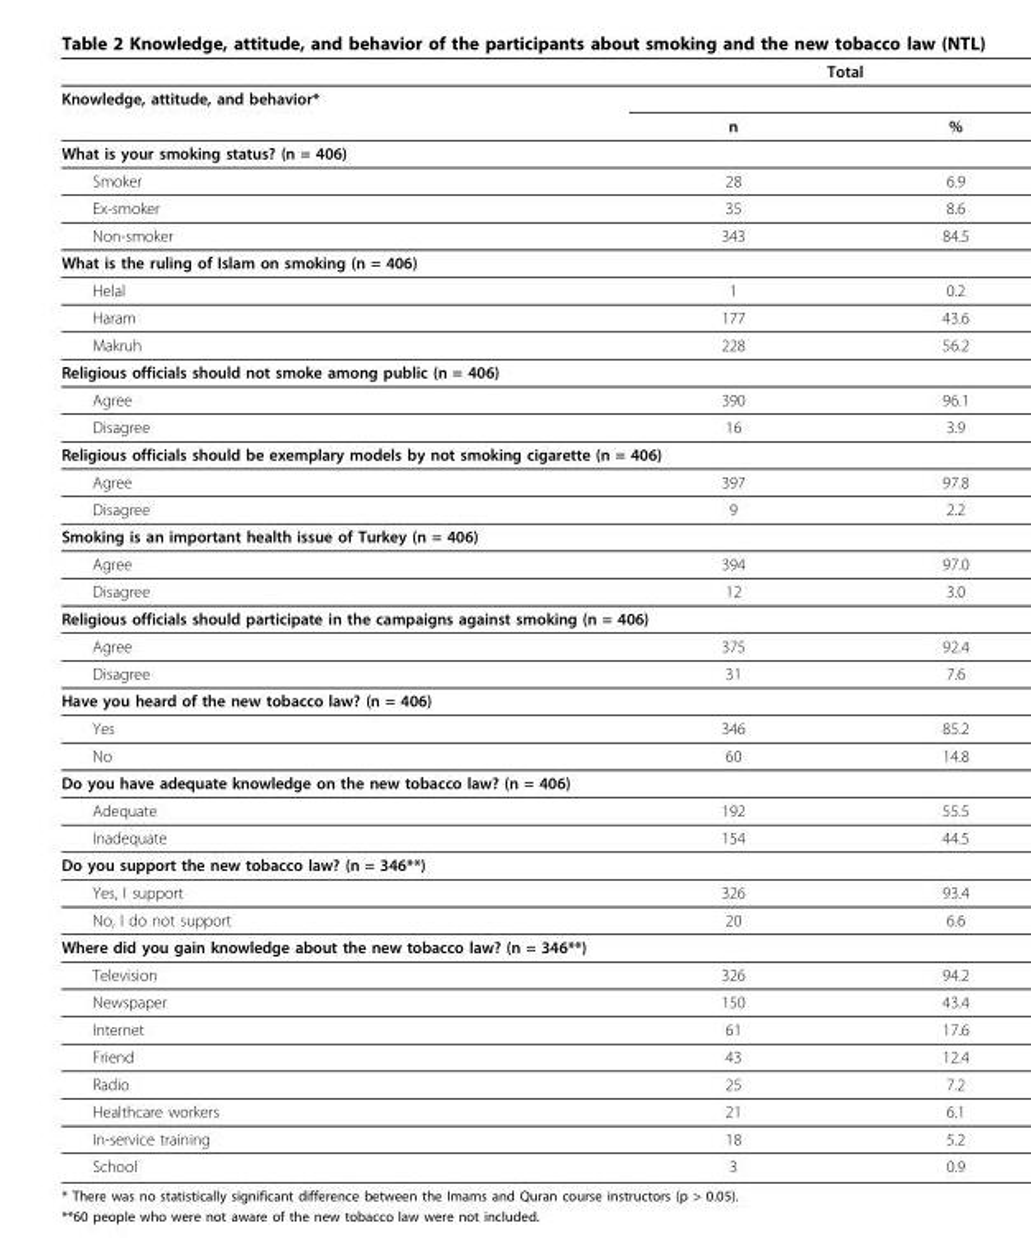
<table><thead><tr><td rowspan="2">Knowledge, attitude, and behavior*</td><td colspan="2">Total</td></tr><tr><td></td><td></td></tr></thead><tbody><tr><td></td><td>n</td><td>%</td></tr><tr><td colspan="3">What is your smoking status? (n = 406)</td></tr><tr><td>Smoker</td><td>28</td><td>6.9</td></tr><tr><td>Ex-smoker</td><td>35</td><td>8.6</td></tr><tr><td>Non-smoker</td><td>343</td><td>84.5</td></tr><tr><td colspan="3">What is the ruling of Islam on smoking (n = 406)</td></tr><tr><td>Helal</td><td>1</td><td>0.2</td></tr><tr><td>Haram</td><td>177</td><td>43.6</td></tr><tr><td>Makruh</td><td>228</td><td>56.2</td></tr><tr><td colspan="3">Religious officials should not smoke among public (n = 406)</td></tr><tr><td>Agree</td><td>390</td><td>96.1</td></tr><tr><td>Disagree</td><td>16</td><td>3.9</td></tr><tr><td colspan="3">Religious officials should be exemplary models by not smoking cigarette (n = 406)</td></tr><tr><td>Agree</td><td>397</td><td>97.8</td></tr><tr><td>Disagree</td><td>9</td><td>2.2</td></tr><tr><td colspan="3">Smoking is an important health issue of Turkey (n = 406)</td></tr><tr><td>Agree</td><td>394</td><td>97.0</td></tr><tr><td>Disagree</td><td>12</td><td>3.0</td></tr><tr><td colspan="3">Religious officials should participate in the campaigns against smoking (n = 406)</td></tr><tr><td>Agree</td><td>375</td><td>92.4</td></tr><tr><td>Disagree</td><td>31</td><td>7.6</td></tr><tr><td colspan="3">Have you heard of the new tobacco law? (n = 406)</td></tr><tr><td>Yes</td><td>346</td><td>85.2</td></tr><tr><td>No</td><td>60</td><td>14.8</td></tr><tr><td colspan="3">Do you have adequate knowledge on the new tobacco law? (n = 406)</td></tr><tr><td>Adequate</td><td>192</td><td>55.5</td></tr><tr><td>Inadequate</td><td>154</td><td>44.5</td></tr><tr><td colspan="3">Do you support the new tobacco law? (n = 346**)</td></tr><tr><td>Yes, I support</td><td>326</td><td>93.4</td></tr><tr><td>No, I do not support</td><td>20</td><td>6.6</td></tr><tr><td colspan="3">Where did you gain knowledge about the new tobacco law? (n = 346**)</td></tr><tr><td>Television</td><td>326</td><td>94.2</td></tr><tr><td>Newspaper</td><td>150</td><td>43.4</td></tr><tr><td>Internet</td><td>61</td><td>17.6</td></tr><tr><td>Friend</td><td>43</td><td>12.4</td></tr><tr><td>Radio</td><td>25</td><td>7.2</td></tr><tr><td>Healthcare workers</td><td>21</td><td>6.1</td></tr><tr><td>In-service training</td><td>18</td><td>5.2</td></tr><tr><td>School</td><td>3</td><td>0.9</td></tr></tbody></table>